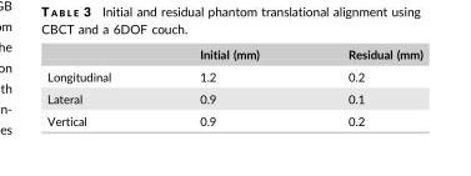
<table><thead><tr><td></td><td>Initial (mm)</td><td>Residual (mm)</td></tr></thead><tbody><tr><td>Longitudinal</td><td>1.2</td><td>0.2</td></tr><tr><td>Lateral</td><td>0.9</td><td>0.1</td></tr><tr><td>Vertical</td><td>0.9</td><td>0.2</td></tr></tbody></table>